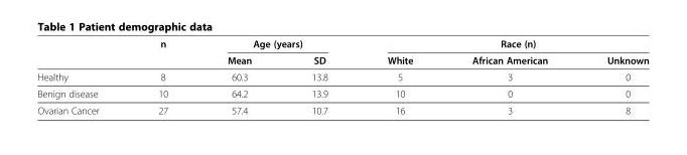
<table><thead><tr><td rowspan="2"></td><td rowspan="2">n</td><td colspan="2">Age (years)</td><td colspan="3">Race (n)</td></tr><tr><td>Mean</td><td>SD</td><td>White</td><td>African American</td><td>Unknown</td></tr></thead><tbody><tr><td>Healthy</td><td>8</td><td>60.3</td><td>13.8</td><td>5</td><td>3</td><td>0</td></tr><tr><td>Benign disease</td><td>10</td><td>64.2</td><td>13.9</td><td>10</td><td>0</td><td>0</td></tr><tr><td>Ovarian Cancer</td><td>27</td><td>57.4</td><td>10.7</td><td>16</td><td>3</td><td>8</td></tr></tbody></table>